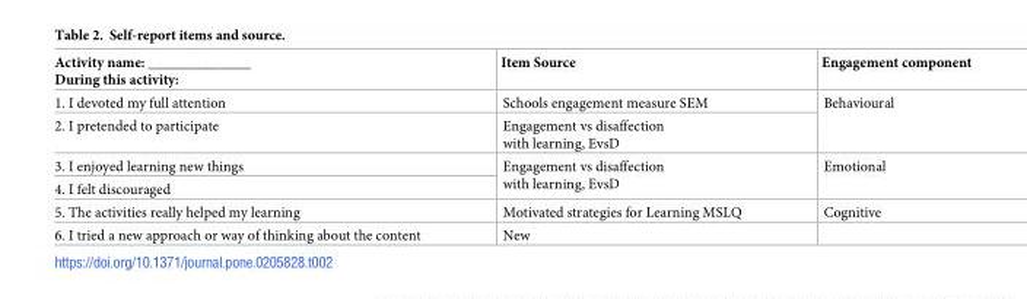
<table><thead><tr><td>Activity name: ______________ During this activity:</td><td>Item Source</td><td>Engagement component</td></tr></thead><tbody><tr><td>1. I devoted my full attention</td><td>Schools engagement measure SEM</td><td rowspan="2">Behavioural</td></tr><tr><td>2. I pretended to participate</td><td>Engagement vs disaffection with learning, EvsD</td></tr><tr><td>3. I enjoyed learning new things</td><td rowspan="2">Engagement vs disaffection with learning, EvsD</td><td rowspan="2">Emotional</td></tr><tr><td>4. I felt discouraged</td></tr><tr><td>5. The activities really helped my learning</td><td>Motivated strategies for Learning MSLQ</td><td>Cognitive</td></tr><tr><td>6. I tried a new approach or way of thinking about the content</td><td>New</td><td></td></tr></tbody></table>